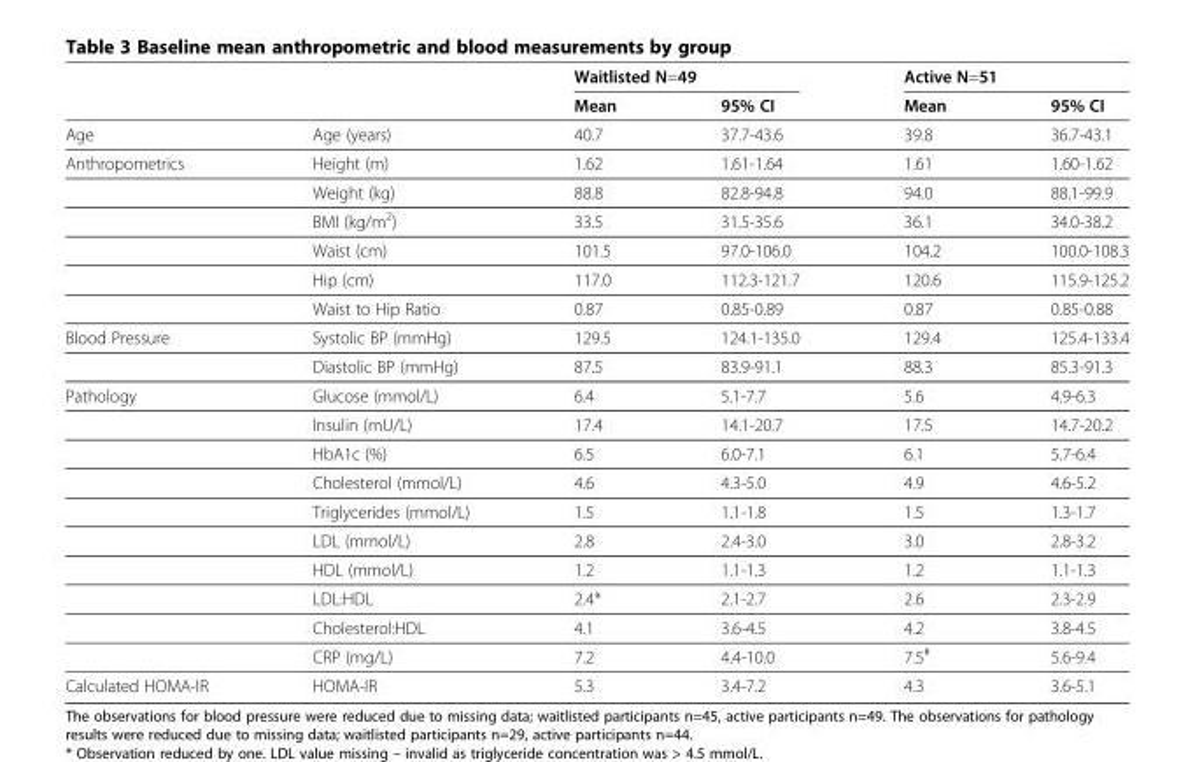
<table><thead><tr><td rowspan="2"></td><td rowspan="2"></td><td colspan="2">Waitlisted N=49</td><td colspan="2">Active N=51</td></tr><tr><td>Mean</td><td>95% CI</td><td>Mean</td><td>95% CI</td></tr></thead><tbody><tr><td>Age</td><td>Age (years)</td><td>40.7</td><td>37.7-43.6</td><td>39.8</td><td>36.7-43.1</td></tr><tr><td rowspan="6">Anthropometrics</td><td>Height (m)</td><td>1.62</td><td>1.61-1.64</td><td>1.61</td><td>1.60-1.62</td></tr><tr><td>Weight (kg)</td><td>88.8</td><td>82.8-94.8</td><td>94.0</td><td>88.1-99.9</td></tr><tr><td>BMI (kg/m<sup>2</sup>)</td><td>33.5</td><td>31.5-35.6</td><td>36.1</td><td>34.0-38.2</td></tr><tr><td>Waist (cm)</td><td>101.5</td><td>97.0-106.0</td><td>104.2</td><td>100.0-108.3</td></tr><tr><td>Hip (cm)</td><td>117.0</td><td>112.3-121.7</td><td>120.6</td><td>115.9-125.2</td></tr><tr><td>Waist to Hip Ratio</td><td>0.87</td><td>0.85-0.89</td><td>0.87</td><td>0.85-0.88</td></tr><tr><td rowspan="2">Blood Pressure</td><td>Systolic BP (mmHg)</td><td>129.5</td><td>124.1-135.0</td><td>129.4</td><td>125.4-133.4</td></tr><tr><td>Diastolic BP (mmHg)</td><td>87.5</td><td>83.9-91.1</td><td>88.3</td><td>85.3-91.3</td></tr><tr><td rowspan="10">Pathology</td><td>Glucose (mmol/L)</td><td>6.4</td><td>5.1-7.7</td><td>5.6</td><td>4.9-6.3</td></tr><tr><td>Insulin (mU/L)</td><td>17.4</td><td>14.1-20.7</td><td>17.5</td><td>14.7-20.2</td></tr><tr><td>HbA1c (%)</td><td>6.5</td><td>6.0-7.1</td><td>6.1</td><td>5.7-6.4</td></tr><tr><td>Cholesterol (mmol/L)</td><td>4.6</td><td>4.3-5.0</td><td>4.9</td><td>4.6-5.2</td></tr><tr><td>Triglycerides (mmol/L)</td><td>1.5</td><td>1.1-1.8</td><td>1.5</td><td>1.3-1.7</td></tr><tr><td>LDL (mmol/L)</td><td>2.8</td><td>2.4-3.0</td><td>3.0</td><td>2.8-3.2</td></tr><tr><td>HDL (mmol/L)</td><td>1.2</td><td>1.1-1.3</td><td>1.2</td><td>1.1-1.3</td></tr><tr><td>LDL:HDL</td><td>2.4*</td><td>2.1-2.7</td><td>2.6</td><td>2.3-2.9</td></tr><tr><td>Cholesterol:HDL</td><td>4.1</td><td>3.6-4.5</td><td>4.2</td><td>3.8-4.5</td></tr><tr><td>CRP (mg/L)</td><td>7.2</td><td>4.4-10.0</td><td>7.5<sup>#</sup></td><td>5.6-9.4</td></tr><tr><td>Calculated HOMA-IR</td><td>HOMA-IR</td><td>5.3</td><td>3.4-7.2</td><td>4.3</td><td>3.6-5.1</td></tr></tbody></table>